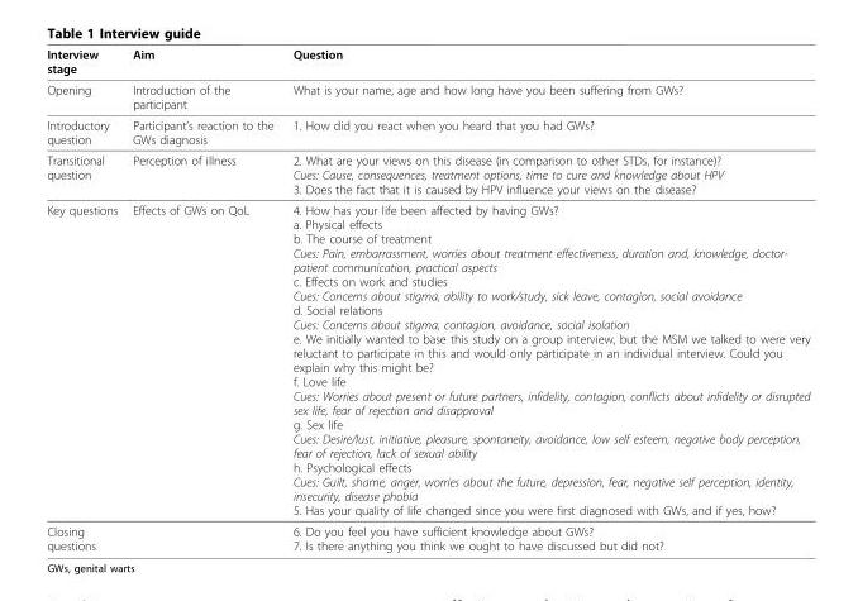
<table><thead><tr><td>Interview stage</td><td>Aim</td><td>Question</td></tr></thead><tbody><tr><td>Opening</td><td>Introduction of the participant</td><td>What is your name, age and how long have you been suffering from GWs?</td></tr><tr><td>Introductory question</td><td>Participant’s reaction to the GWs diagnosis</td><td>1. How did you react when you heard that you had GWs?</td></tr><tr><td>Transitional question</td><td>Perception of illness</td><td>2. What are your views on this disease (in comparison to other STDs, for instance)? Cues: Cause, consequences, treatment options, time to cure and knowledge about HPV 3. Does the fact that it is caused by HPV influence your views on the disease?</td></tr><tr><td>Key questions</td><td>Effects of GWs on QoL</td><td>4. How has your life been affected by having GWs? a. Physical effects b. The course of treatment Cues: Pain, embarrassment, worries about treatment effectiveness, duration and, knowledge, doctor- patient communication, practical aspects c. Effects on work and studies Cues: Concerns about stigma, ability to work/study, sick leave, contagion, social avoidance d. Social relations Cues: Concerns about stigma, contagion, avoidance, social isolation e. We initially wanted to base this study on a group interview, but the MSM we talked to were very reluctant to participate in this and would only participate in an individual interview. Could you explain why this might be? f. Love life Cues: Worries about present or future partners, infidelity, contagion, conflicts about infidelity or disrupted sex life, fear of rejection and disapproval g. Sex life Cues: Desire/lust, initiative, pleasure, spontaneity, avoidance, low self esteem, negative body perception, fear of rejection, lack of sexual ability h. Psychological effects Cues: Guilt, shame, anger, worries about the future, depression, fear, negative self perception, identity, insecurity, disease phobia 5. Has your quality of life changed since you were first diagnosed with GWs, and if yes, how?</td></tr><tr><td>Closing questions</td><td></td><td>6. Do you feel you have sufficient knowledge about GWs? 7. Is there anything you think we ought to have discussed but did not?</td></tr></tbody></table>